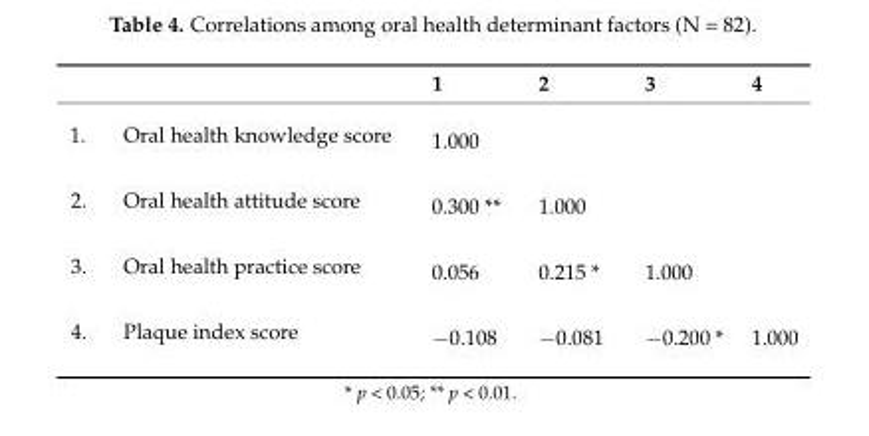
<table><thead><tr><td></td><td>1</td><td>2</td><td>3</td><td>4</td></tr></thead><tbody><tr><td>1. Oral health knowledge score</td><td>1.000</td><td></td><td></td><td></td></tr><tr><td>2. Oral health attitude score</td><td>0.300 **</td><td>1.000</td><td></td><td></td></tr><tr><td>3. Oral health practice score</td><td>0.056</td><td>0.215 *</td><td>1.000</td><td></td></tr><tr><td>4. Plaque index score</td><td>−0.108</td><td>−0.081</td><td>−0.200 *</td><td>1.000</td></tr></tbody></table>